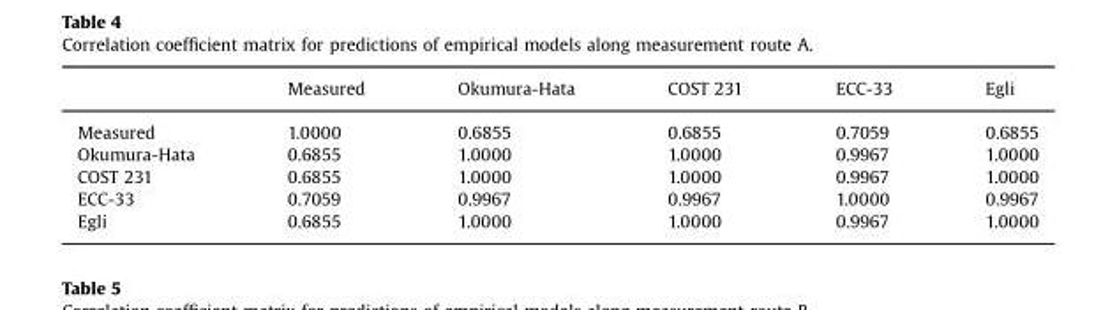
<table><thead><tr><td></td><td>Measured</td><td>Okumura-Hata</td><td>COST 231</td><td>ECC-33</td><td>Egli</td></tr></thead><tbody><tr><td>Measured</td><td>1.0000</td><td>0.6855</td><td>0.6855</td><td>0.7059</td><td>0.6855</td></tr><tr><td>Okumura-Hata</td><td>0.6855</td><td>1.0000</td><td>1.0000</td><td>0.9967</td><td>1.0000</td></tr><tr><td>COST 231</td><td>0.6855</td><td>1.0000</td><td>1.0000</td><td>0.9967</td><td>1.0000</td></tr><tr><td>ECC-33</td><td>0.7059</td><td>0.9967</td><td>0.9967</td><td>1.0000</td><td>0.9967</td></tr><tr><td>Egli</td><td>0.6855</td><td>1.0000</td><td>1.0000</td><td>0.9967</td><td>1.0000</td></tr></tbody></table>